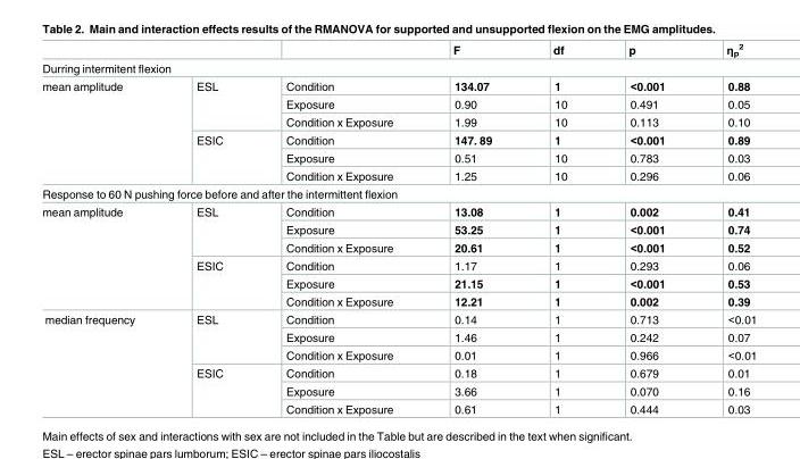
<table><thead><tr><td></td><td></td><td></td><td>F</td><td>df</td><td>p</td><td>η<sub>p</sub> <sup>2</sup></td></tr></thead><tbody><tr><td colspan="7">Durring intermitent flexion</td></tr><tr><td rowspan="6">mean amplitude</td><td rowspan="3">ESL</td><td>Condition</td><td>134.07</td><td>1</td><td>&lt;0.001</td><td>0.88</td></tr><tr><td>Exposure</td><td>0.90</td><td>10</td><td>0.491</td><td>0.05</td></tr><tr><td>Condition x Exposure</td><td>1.99</td><td>10</td><td>0.113</td><td>0.10</td></tr><tr><td rowspan="3">ESIC</td><td>Condition</td><td>147. 89</td><td>1</td><td>&lt;0.001</td><td>0.89</td></tr><tr><td>Exposure</td><td>0.51</td><td>10</td><td>0.783</td><td>0.03</td></tr><tr><td>Condition x Exposure</td><td>1.25</td><td>10</td><td>0.296</td><td>0.06</td></tr><tr><td colspan="7">Response to 60 N pushing force before and after the intermittent flexion</td></tr><tr><td rowspan="6">mean amplitude</td><td rowspan="3">ESL</td><td>Condition</td><td>13.08</td><td>1</td><td>0.002</td><td>0.41</td></tr><tr><td>Exposure</td><td>53.25</td><td>1</td><td>&lt;0.001</td><td>0.74</td></tr><tr><td>Condition x Exposure</td><td>20.61</td><td>1</td><td>&lt;0.001</td><td>0.52</td></tr><tr><td rowspan="3">ESIC</td><td>Condition</td><td>1.17</td><td>1</td><td>0.293</td><td>0.06</td></tr><tr><td>Exposure</td><td>21.15</td><td>1</td><td>&lt;0.001</td><td>0.53</td></tr><tr><td>Condition x Exposure</td><td>12.21</td><td>1</td><td>0.002</td><td>0.39</td></tr><tr><td rowspan="6">median frequency</td><td rowspan="3">ESL</td><td>Condition</td><td>0.14</td><td>1</td><td>0.713</td><td>&lt;0.01</td></tr><tr><td>Exposure</td><td>1.46</td><td>1</td><td>0.242</td><td>0.07</td></tr><tr><td>Condition x Exposure</td><td>0.01</td><td>1</td><td>0.966</td><td>&lt;0.01</td></tr><tr><td rowspan="3">ESIC</td><td>Condition</td><td>0.18</td><td>1</td><td>0.679</td><td>0.01</td></tr><tr><td>Exposure</td><td>3.66</td><td>1</td><td>0.070</td><td>0.16</td></tr><tr><td>Condition x Exposure</td><td>0.61</td><td>1</td><td>0.444</td><td>0.03</td></tr></tbody></table>